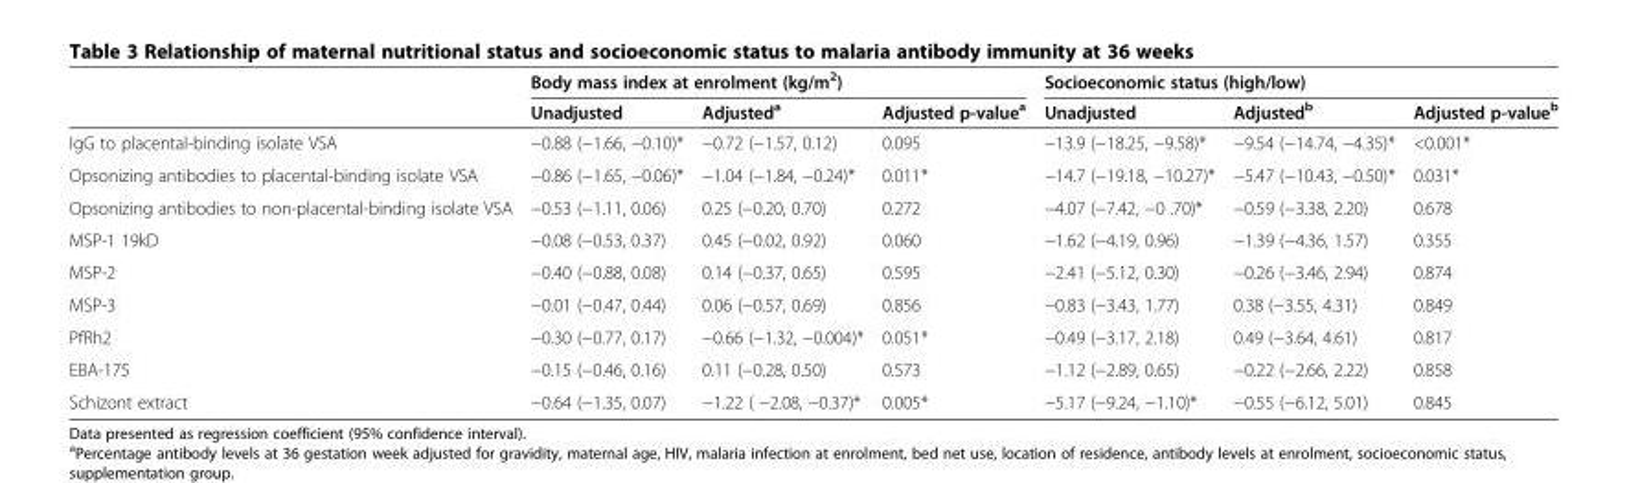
<table><thead><tr><td rowspan="2"></td><td colspan="3">Body mass index at enrolment (kg/m<sup>2</sup>)</td><td colspan="3">Socioeconomic status (high/low)</td></tr><tr><td>Unadjusted</td><td>Adjusted<sup>a</sup></td><td>Adjusted p-value<sup>a</sup></td><td>Unadjusted</td><td>Adjusted<sup>b</sup></td><td>Adjusted p-value<sup>b</sup></td></tr></thead><tbody><tr><td>IgG to placental-binding isolate VSA</td><td>−0.88 (−1.66, −0.10)*</td><td>−0.72 (−1.57, 0.12)</td><td>0.095</td><td>−13.9 (−18.25, −9.58)*</td><td>−9.54 (−14.74, −4.35)*</td><td>&lt;0.001*</td></tr><tr><td>Opsonizing antibodies to placental-binding isolate VSA</td><td>−0.86 (−1.65, −0.06)*</td><td>−1.04 (−1.84, −0.24)*</td><td>0.011*</td><td>−14.7 (−19.18, −10.27)*</td><td>−5.47 (−10.43, −0.50)*</td><td>0.031*</td></tr><tr><td>Opsonizing antibodies to non-placental-binding isolate VSA</td><td>−0.53 (−1.11, 0.06)</td><td>0.25 (−0.20, 0.70)</td><td>0.272</td><td>−4.07 (−7.42, −0 .70)*</td><td>−0.59 (−3.38, 2.20)</td><td>0.678</td></tr><tr><td>MSP-1 19kD</td><td>−0.08 (−0.53, 0.37)</td><td>0.45 (−0.02, 0.92)</td><td>0.060</td><td>−1.62 (−4.19, 0.96)</td><td>−1.39 (−4.36, 1.57)</td><td>0.355</td></tr><tr><td>MSP-2</td><td>−0.40 (−0.88, 0.08)</td><td>0.14 (−0.37, 0.65)</td><td>0.595</td><td>−2.41 (−5.12, 0.30)</td><td>−0.26 (−3.46, 2.94)</td><td>0.874</td></tr><tr><td>MSP-3</td><td>−0.01 (−0.47, 0.44)</td><td>0.06 (−0.57, 0.69)</td><td>0.856</td><td>−0.83 (−3.43, 1.77)</td><td>0.38 (−3.55, 4.31)</td><td>0.849</td></tr><tr><td>PfRh2</td><td>−0.30 (−0.77, 0.17)</td><td>−0.66 (−1.32, −0.004)*</td><td>0.051*</td><td>−0.49 (−3.17, 2.18)</td><td>0.49 (−3.64, 4.61)</td><td>0.817</td></tr><tr><td>EBA-175</td><td>−0.15 (−0.46, 0.16)</td><td>0.11 (−0.28, 0.50)</td><td>0.573</td><td>−1.12 (−2.89, 0.65)</td><td>−0.22 (−2.66, 2.22)</td><td>0.858</td></tr><tr><td>Schizont extract</td><td>−0.64 (−1.35, 0.07)</td><td>−1.22 ( −2.08, −0.37)*</td><td>0.005*</td><td>−5.17 (−9.24, −1.10)*</td><td>−0.55 (−6.12, 5.01)</td><td>0.845</td></tr></tbody></table>